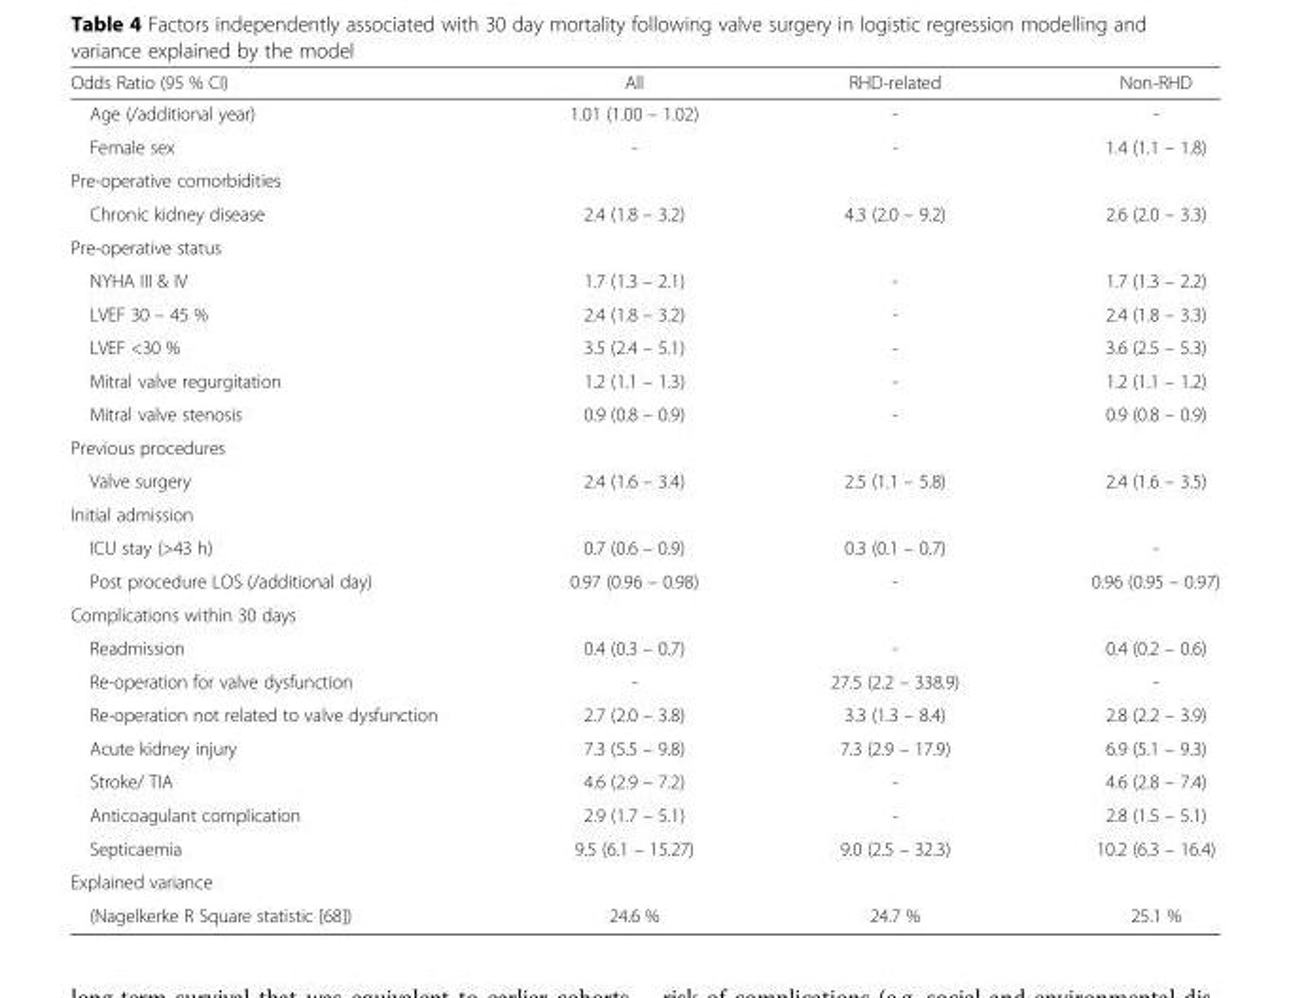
<table><thead><tr><td>Odds Ratio (95 % CI)</td><td>All</td><td>RHD-related</td><td>Non-RHD</td></tr></thead><tbody><tr><td>Age (/additional year)</td><td>1.01 (1.00 – 1.02)</td><td>-</td><td>-</td></tr><tr><td>Female sex</td><td>-</td><td>-</td><td>1.4 (1.1 – 1.8)</td></tr><tr><td colspan="4">Pre-operative comorbidities</td></tr><tr><td>Chronic kidney disease</td><td>2.4 (1.8 – 3.2)</td><td>4.3 (2.0 – 9.2)</td><td>2.6 (2.0 – 3.3)</td></tr><tr><td colspan="4">Pre-operative status</td></tr><tr><td>NYHA III &amp; IV</td><td>1.7 (1.3 – 2.1)</td><td>-</td><td>1.7 (1.3 – 2.2)</td></tr><tr><td>LVEF 30 – 45 %</td><td>2.4 (1.8 – 3.2)</td><td>-</td><td>2.4 (1.8 – 3.3)</td></tr><tr><td>LVEF &lt;30 %</td><td>3.5 (2.4 – 5.1)</td><td>-</td><td>3.6 (2.5 – 5.3)</td></tr><tr><td>Mitral valve regurgitation</td><td>1.2 (1.1 – 1.3)</td><td>-</td><td>1.2 (1.1 – 1.2)</td></tr><tr><td>Mitral valve stenosis</td><td>0.9 (0.8 – 0.9)</td><td>-</td><td>0.9 (0.8 – 0.9)</td></tr><tr><td colspan="4">Previous procedures</td></tr><tr><td>Valve surgery</td><td>2.4 (1.6 – 3.4)</td><td>2.5 (1.1 – 5.8)</td><td>2.4 (1.6 – 3.5)</td></tr><tr><td colspan="4">Initial admission</td></tr><tr><td>ICU stay (&gt;43 h)</td><td>0.7 (0.6 – 0.9)</td><td>0.3 (0.1 – 0.7)</td><td>-</td></tr><tr><td>Post procedure LOS (/additional day)</td><td>0.97 (0.96 – 0.98)</td><td>-</td><td>0.96 (0.95 – 0.97)</td></tr><tr><td colspan="4">Complications within 30 days</td></tr><tr><td>Readmission</td><td>0.4 (0.3 – 0.7)</td><td>-</td><td>0.4 (0.2 – 0.6)</td></tr><tr><td>Re-operation for valve dysfunction</td><td>-</td><td>27.5 (2.2 – 338.9)</td><td>-</td></tr><tr><td>Re-operation not related to valve dysfunction</td><td>2.7 (2.0 – 3.8)</td><td>3.3 (1.3 – 8.4)</td><td>2.8 (2.2 – 3.9)</td></tr><tr><td>Acute kidney injury</td><td>7.3 (5.5 – 9.8)</td><td>7.3 (2.9 – 17.9)</td><td>6.9 (5.1 – 9.3)</td></tr><tr><td>Stroke/ TIA</td><td>4.6 (2.9 – 7.2)</td><td>-</td><td>4.6 (2.8 – 7.4)</td></tr><tr><td>Anticoagulant complication</td><td>2.9 (1.7 – 5.1)</td><td>-</td><td>2.8 (1.5 – 5.1)</td></tr><tr><td>Septicaemia</td><td>9.5 (6.1 – 15.27)</td><td>9.0 (2.5 – 32.3)</td><td>10.2 (6.3 – 16.4)</td></tr><tr><td colspan="4">Explained variance</td></tr><tr><td>(Nagelkerke R Square statistic [68])</td><td>24.6 %</td><td>24.7 %</td><td>25.1 %</td></tr></tbody></table>